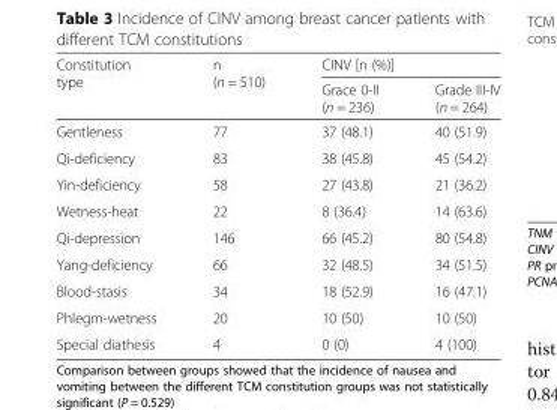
<table><thead><tr><td rowspan="2">Constitution type</td><td rowspan="2">n (n = 510)</td><td colspan="2">CINV [n (%)]</td></tr><tr><td>Grace 0-II (n = 236)</td><td>Grade III-IV (n = 264)</td></tr></thead><tbody><tr><td>Gentleness</td><td>77</td><td>37 (48.1)</td><td>40 (51.9)</td></tr><tr><td>Qi-deficiency</td><td>83</td><td>38 (45.8)</td><td>45 (54.2)</td></tr><tr><td>Yin-deficiency</td><td>58</td><td>27 (43.8)</td><td>21 (36.2)</td></tr><tr><td>Wetness-heat</td><td>22</td><td>8 (36.4)</td><td>14 (63.6)</td></tr><tr><td>Qi-depression</td><td>146</td><td>66 (45.2)</td><td>80 (54.8)</td></tr><tr><td>Yang-deficiency</td><td>66</td><td>32 (48.5)</td><td>34 (51.5)</td></tr><tr><td>Blood-stasis</td><td>34</td><td>18 (52.9)</td><td>16 (47.1)</td></tr><tr><td>Phlegm-wetness</td><td>20</td><td>10 (50)</td><td>10 (50)</td></tr><tr><td>Special diathesis</td><td>4</td><td>0 (0)</td><td>4 (100)</td></tr></tbody></table>